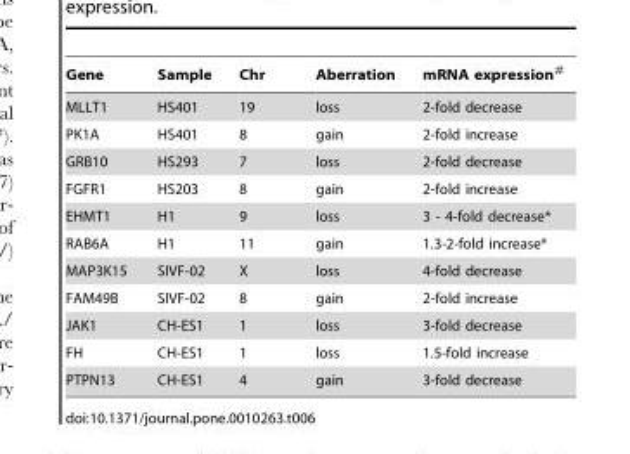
<table><thead><tr><td>Gene</td><td>Sample</td><td>Chr</td><td>Aberration</td><td>mRNA expression<sup>#</sup></td></tr></thead><tbody><tr><td>MLLT1</td><td>HS401</td><td>19</td><td>loss</td><td>2-fold decrease</td></tr><tr><td>PK1A</td><td>HS401</td><td>8</td><td>gain</td><td>2-fold increase</td></tr><tr><td>GRB10</td><td>HS293</td><td>7</td><td>loss</td><td>2-fold decrease</td></tr><tr><td>FGFR1</td><td>HS203</td><td>8</td><td>gain</td><td>2-fold increase</td></tr><tr><td>EHMT1</td><td>H1</td><td>9</td><td>loss</td><td>3 - 4-fold decrease*</td></tr><tr><td>RAB6A</td><td>H1</td><td>11</td><td>gain</td><td>1.3-2-fold increase*</td></tr><tr><td>MAP3K15</td><td>SIVF-02</td><td>X</td><td>loss</td><td>4-fold decrease</td></tr><tr><td>FAM49B</td><td>SIVF-02</td><td>8</td><td>gain</td><td>2-fold increase</td></tr><tr><td>JAK1</td><td>CH-ES1</td><td>1</td><td>loss</td><td>3-fold decrease</td></tr><tr><td>FH</td><td>CH-ES1</td><td>1</td><td>loss</td><td>1.5-fold increase</td></tr><tr><td>PTPN13</td><td>CH-ES1</td><td>4</td><td>gain</td><td>3-fold decrease</td></tr></tbody></table>